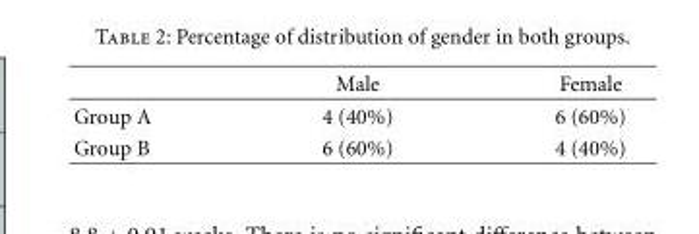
<table><thead><tr><td></td><td>Male</td><td>Female</td></tr></thead><tbody><tr><td>Group A</td><td>4 (40%)</td><td>6 (60%)</td></tr><tr><td>Group B</td><td>6 (60%)</td><td>4 (40%)</td></tr></tbody></table>